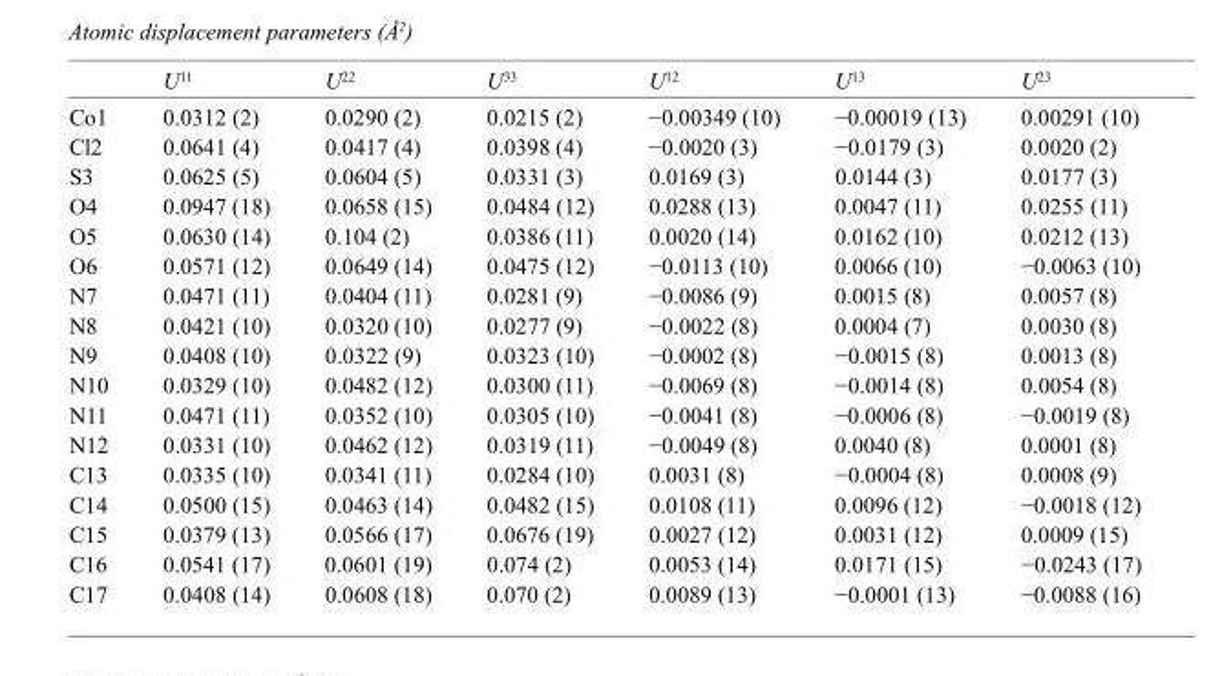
<table><thead><tr><td></td><td>U<sup>11</sup></td><td>U<sup>22</sup></td><td>U<sup>33</sup></td><td>U<sup>12</sup></td><td>U<sup>13</sup></td><td>U<sup>23</sup></td></tr></thead><tbody><tr><td>Co1</td><td>0.0312 (2)</td><td>0.0290 (2)</td><td>0.0215 (2)</td><td>−0.00349 (10)</td><td>−0.00019 (13)</td><td>0.00291 (10)</td></tr><tr><td>Cl2</td><td>0.0641 (4)</td><td>0.0417 (4)</td><td>0.0398 (4)</td><td>−0.0020 (3)</td><td>−0.0179 (3)</td><td>0.0020 (2)</td></tr><tr><td>S3</td><td>0.0625 (5)</td><td>0.0604 (5)</td><td>0.0331 (3)</td><td>0.0169 (3)</td><td>0.0144 (3)</td><td>0.0177 (3)</td></tr><tr><td>O4</td><td>0.0947 (18)</td><td>0.0658 (15)</td><td>0.0484 (12)</td><td>0.0288 (13)</td><td>0.0047 (11)</td><td>0.0255 (11)</td></tr><tr><td>O5</td><td>0.0630 (14)</td><td>0.104 (2)</td><td>0.0386 (11)</td><td>0.0020 (14)</td><td>0.0162 (10)</td><td>0.0212 (13)</td></tr><tr><td>O6</td><td>0.0571 (12)</td><td>0.0649 (14)</td><td>0.0475 (12)</td><td>−0.0113 (10)</td><td>0.0066 (10)</td><td>−0.0063 (10)</td></tr><tr><td>N7</td><td>0.0471 (11)</td><td>0.0404 (11)</td><td>0.0281 (9)</td><td>−0.0086 (9)</td><td>0.0015 (8)</td><td>0.0057 (8)</td></tr><tr><td>N8</td><td>0.0421 (10)</td><td>0.0320 (10)</td><td>0.0277 (9)</td><td>−0.0022 (8)</td><td>0.0004 (7)</td><td>0.0030 (8)</td></tr><tr><td>N9</td><td>0.0408 (10)</td><td>0.0322 (9)</td><td>0.0323 (10)</td><td>−0.0002 (8)</td><td>−0.0015 (8)</td><td>0.0013 (8)</td></tr><tr><td>N10</td><td>0.0329 (10)</td><td>0.0482 (12)</td><td>0.0300 (11)</td><td>−0.0069 (8)</td><td>−0.0014 (8)</td><td>0.0054 (8)</td></tr><tr><td>N11</td><td>0.0471 (11)</td><td>0.0352 (10)</td><td>0.0305 (10)</td><td>−0.0041 (8)</td><td>−0.0006 (8)</td><td>−0.0019 (8)</td></tr><tr><td>N12</td><td>0.0331 (10)</td><td>0.0462 (12)</td><td>0.0319 (11)</td><td>−0.0049 (8)</td><td>0.0040 (8)</td><td>0.0001 (8)</td></tr><tr><td>C13</td><td>0.0335 (10)</td><td>0.0341 (11)</td><td>0.0284 (10)</td><td>0.0031 (8)</td><td>−0.0004 (8)</td><td>0.0008 (9)</td></tr><tr><td>C14</td><td>0.0500 (15)</td><td>0.0463 (14)</td><td>0.0482 (15)</td><td>0.0108 (11)</td><td>0.0096 (12)</td><td>−0.0018 (12)</td></tr><tr><td>C15</td><td>0.0379 (13)</td><td>0.0566 (17)</td><td>0.0676 (19)</td><td>0.0027 (12)</td><td>0.0031 (12)</td><td>0.0009 (15)</td></tr><tr><td>C16</td><td>0.0541 (17)</td><td>0.0601 (19)</td><td>0.074 (2)</td><td>0.0053 (14)</td><td>0.0171 (15)</td><td>−0.0243 (17)</td></tr><tr><td>C17</td><td>0.0408 (14)</td><td>0.0608 (18)</td><td>0.070 (2)</td><td>0.0089 (13)</td><td>−0.0001 (13)</td><td>−0.0088 (16)</td></tr></tbody></table>